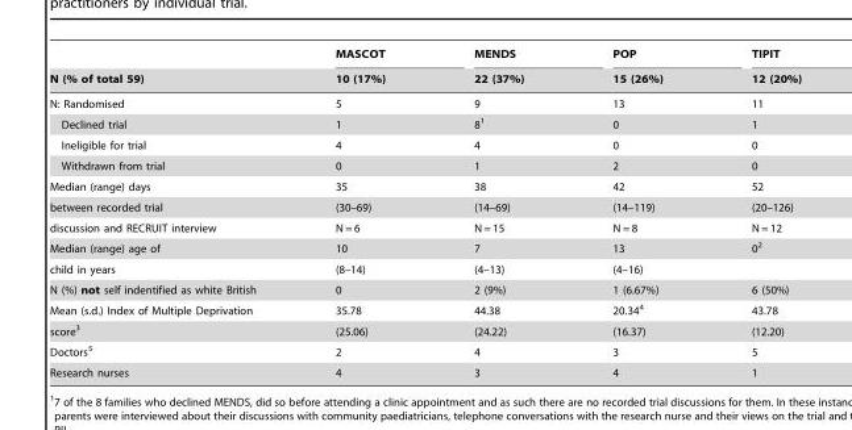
<table><thead><tr><td rowspan="2">N (% of total 59)</td><td rowspan="2">MASCOT 10 (17%)</td><td rowspan="2">MENDS 22 (37%)</td><td rowspan="2">POP 15 (26%)</td><td rowspan="2">TIPIT 12 (20%)</td></tr><tr></tr></thead><tbody><tr><td>N: Randomised</td><td>5</td><td>9</td><td>13</td><td>11</td></tr><tr><td>Declined trial</td><td>1</td><td>8<sup>1</sup></td><td>0</td><td>1</td></tr><tr><td>Ineligible for trial</td><td>4</td><td>4</td><td>0</td><td>0</td></tr><tr><td>Withdrawn from trial</td><td>0</td><td>1</td><td>2</td><td>0</td></tr><tr><td>Median (range) days</td><td>35</td><td>38</td><td>42</td><td>52</td></tr><tr><td>between recorded trial</td><td>(30–69)</td><td>(14–69)</td><td>(14–119)</td><td>(20–126)</td></tr><tr><td>discussion and RECRUIT interview</td><td>N = 6</td><td>N = 15</td><td>N = 8</td><td>N = 12</td></tr><tr><td>Median (range) age of</td><td>10</td><td>7</td><td>13</td><td>0<sup>2</sup></td></tr><tr><td>child in years</td><td>(8–14)</td><td>(4–13)</td><td>(4–16)</td><td></td></tr><tr><td>N (%) not self indentified as white British</td><td>0</td><td>2 (9%)</td><td>1 (6.67%)</td><td>6 (50%)</td></tr><tr><td>Mean (s.d.) Index of Multiple Deprivation</td><td>35.78</td><td>44.38</td><td>20.34<sup>4</sup></td><td>43.78</td></tr><tr><td>score<sup>3</sup></td><td>(25.06)</td><td>(24.22)</td><td>(16.37)</td><td>(12.20)</td></tr><tr><td>Doctors<sup>5</sup></td><td>2</td><td>4</td><td>3</td><td>5</td></tr><tr><td>Research nurses</td><td>4</td><td>3</td><td>4</td><td>1</td></tr></tbody></table>